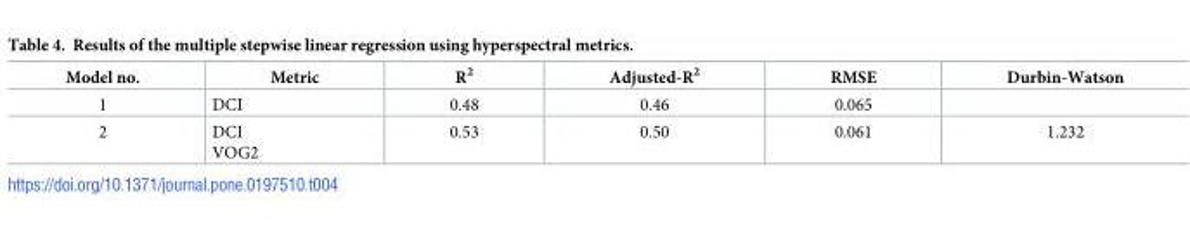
<table><thead><tr><td>Model no.</td><td>Metric</td><td>R<sup>2</sup></td><td>Adjusted-R<sup>2</sup></td><td>RMSE</td><td>Durbin-Watson</td></tr></thead><tbody><tr><td>1</td><td>DCI</td><td>0.48</td><td>0.46</td><td>0.065</td><td></td></tr><tr><td>2</td><td>DCI VOG2</td><td>0.53</td><td>0.50</td><td>0.061</td><td>1.232</td></tr></tbody></table>